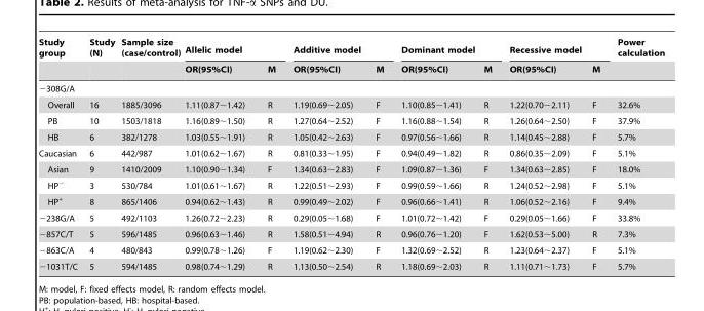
<table><thead><tr><td rowspan="2">Study group</td><td rowspan="2">Study (N)</td><td rowspan="2">Sample size (case/control)</td><td colspan="2">Allelic model</td><td colspan="2">Additive model</td><td colspan="2">Dominant model</td><td colspan="2">Recessive model</td><td rowspan="2">Power calculation</td></tr><tr><td>OR(95%CI)</td><td>M</td><td>OR(95%CI)</td><td>M</td><td>OR(95%CI)</td><td>M</td><td>OR(95%CI)</td><td>M</td></tr></thead><tbody><tr><td colspan="12">−308G/A</td></tr><tr><td>Overall</td><td>16</td><td>1885/3096</td><td>1.11(0.87∼1.42)</td><td>R</td><td>1.19(0.69∼2.05)</td><td>F</td><td>1.10(0.85∼1.41)</td><td>R</td><td>1.22(0.70∼2.11)</td><td>F</td><td>32.6%</td></tr><tr><td>PB</td><td>10</td><td>1503/1818</td><td>1.16(0.89∼1.50)</td><td>R</td><td>1.27(0.64∼2.52)</td><td>F</td><td>1.16(0.88∼1.54)</td><td>R</td><td>1.26(0.64∼2.50)</td><td>F</td><td>37.9%</td></tr><tr><td>HB</td><td>6</td><td>382/1278</td><td>1.03(0.55∼1.91)</td><td>R</td><td>1.05(0.42∼2.63)</td><td>F</td><td>0.97(0.56∼1.66)</td><td>R</td><td>1.14(0.45∼2.88)</td><td>F</td><td>5.7%</td></tr><tr><td>Caucasian</td><td>6</td><td>442/987</td><td>1.01(0.62∼1.67)</td><td>R</td><td>0.81(0.33∼1.95)</td><td>F</td><td>0.94(0.49∼1.82)</td><td>R</td><td>0.86(0.35∼2.09)</td><td>F</td><td>5.1%</td></tr><tr><td>Asian</td><td>9</td><td>1410/2009</td><td>1.10(0.90∼1.34)</td><td>F</td><td>1.34(0.63∼2.83)</td><td>F</td><td>1.09(0.87∼1.36)</td><td>F</td><td>1.34(0.63∼2.85)</td><td>F</td><td>18.0%</td></tr><tr><td>HP<sup>−</sup></td><td>3</td><td>530/784</td><td>1.01(0.61∼1.67)</td><td>R</td><td>1.22(0.51∼2.93)</td><td>F</td><td>0.99(0.59∼1.66)</td><td>R</td><td>1.24(0.52∼2.98)</td><td>F</td><td>5.1%</td></tr><tr><td>HP<sup>+</sup></td><td>8</td><td>865/1406</td><td>0.94(0.62∼1.43)</td><td>R</td><td>0.99(0.49∼2.02)</td><td>F</td><td>0.96(0.66∼1.41)</td><td>R</td><td>1.06(0.52∼2.16)</td><td>F</td><td>9.4%</td></tr><tr><td>−238G/A</td><td>5</td><td>492/1103</td><td>1.26(0.72∼2.23)</td><td>R</td><td>0.29(0.05∼1.68)</td><td>F</td><td>1.01(0.72∼1.42)</td><td>F</td><td>0.29(0.05∼1.66)</td><td>F</td><td>33.8%</td></tr><tr><td>−857C/T</td><td>5</td><td>596/1485</td><td>0.96(0.63∼1.46)</td><td>R</td><td>1.58(0.51∼4.94)</td><td>R</td><td>0.96(0.76∼1.20)</td><td>F</td><td>1.62(0.53∼5.00)</td><td>R</td><td>7.3%</td></tr><tr><td>−863C/A</td><td>4</td><td>480/843</td><td>0.99(0.78∼1.26)</td><td>F</td><td>1.19(0.62∼2.30)</td><td>F</td><td>1.32(0.69∼2.52)</td><td>R</td><td>1.23(0.64∼2.37)</td><td>F</td><td>5.1%</td></tr><tr><td>−1031T/C</td><td>5</td><td>594/1485</td><td>0.98(0.74∼1.29)</td><td>R</td><td>1.13(0.50∼2.54)</td><td>R</td><td>1.18(0.69∼2.03)</td><td>R</td><td>1.11(0.71∼1.73)</td><td>F</td><td>5.7%</td></tr></tbody></table>